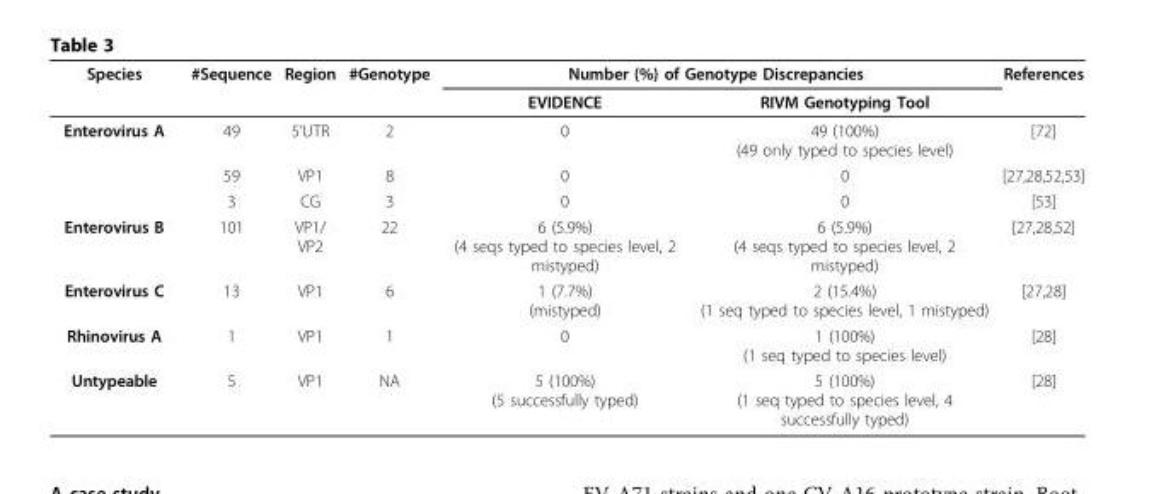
<table><thead><tr><td rowspan="2">Species</td><td rowspan="2">#Sequence</td><td rowspan="2">Region</td><td rowspan="2">#Genotype</td><td colspan="2">Number (%) of Genotype Discrepancies</td><td rowspan="2">References</td></tr><tr><td>EVIDENCE</td><td>RIVM Genotyping Tool</td></tr></thead><tbody><tr><td rowspan="3">Enterovirus A</td><td>49</td><td>5’UTR</td><td>2</td><td>0</td><td>49 (100%) (49 only typed to species level)</td><td>[72]</td></tr><tr><td>59</td><td>VP1</td><td>8</td><td>0</td><td>0</td><td>[27,28,52,53]</td></tr><tr><td>3</td><td>CG</td><td>3</td><td>0</td><td>0</td><td>[53]</td></tr><tr><td>Enterovirus B</td><td>101</td><td>VP1/ VP2</td><td>22</td><td>6 (5.9%) (4 seqs typed to species level, 2 mistyped)</td><td>6 (5.9%) (4 seqs typed to species level, 2 mistyped)</td><td>[27,28,52]</td></tr><tr><td>Enterovirus C</td><td>13</td><td>VP1</td><td>6</td><td>1 (7.7%) (mistyped)</td><td>2 (15.4%) (1 seq typed to species level, 1 mistyped)</td><td>[27,28]</td></tr><tr><td>Rhinovirus A</td><td>1</td><td>VP1</td><td>1</td><td>0</td><td>1 (100%) (1 seq typed to species level)</td><td>[28]</td></tr><tr><td>Untypeable</td><td>5</td><td>VP1</td><td>NA</td><td>5 (100%) (5 successfully typed)</td><td>5 (100%) (1 seq typed to species level, 4 successfully typed)</td><td>[28]</td></tr></tbody></table>